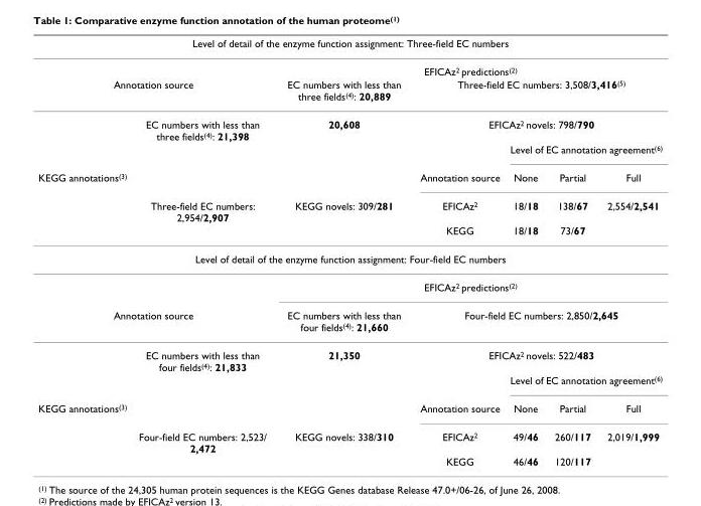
<table><thead><tr><td colspan="7">Level of detail of the enzyme function assignment: Three-field EC numbers</td></tr></thead><tbody><tr><td></td><td></td><td colspan="5">EFICAz<sup>2</sup> predictions<sup>(2)</sup></td></tr><tr><td colspan="2">Annotation source</td><td>EC numbers with less than three fields<sup>(4)</sup>: 20,889</td><td colspan="4">Three-field EC numbers: 3,508/3,416<sup>(5)</sup></td></tr><tr><td></td><td>EC numbers with less than three fields<sup>(4)</sup>: 21,398</td><td>20,608</td><td colspan="4">EFICAz<sup>2</sup> novels: 798/790</td></tr><tr><td></td><td></td><td></td><td></td><td colspan="3">Level of EC annotation agreement<sup>(6)</sup></td></tr><tr><td rowspan="3">KEGG annotations<sup>(3)</sup></td><td></td><td></td><td>Annotation source</td><td>None</td><td>Partial</td><td>Full</td></tr><tr><td>Three-field EC numbers: 2,954/2,907</td><td>KEGG novels: 309/281</td><td>EFICAz<sup>2</sup></td><td>18/18</td><td>138/67</td><td>2,554/2,541</td></tr><tr><td></td><td></td><td>KEGG</td><td>18/18</td><td>73/67</td><td></td></tr><tr><td colspan="7">Level of detail of the enzyme function assignment: Four-field EC numbers</td></tr><tr><td></td><td></td><td colspan="5">EFICAz<sup>2</sup> predictions<sup>(2)</sup></td></tr><tr><td colspan="2">Annotation source</td><td>EC numbers with less than four fields<sup>(4)</sup>: 21,660</td><td colspan="4">Four-field EC numbers: 2,850/2,645</td></tr><tr><td></td><td>EC numbers with less than four fields<sup>(4)</sup>: 21,833</td><td>21,350</td><td colspan="4">EFICAz<sup>2</sup> novels: 522/483</td></tr><tr><td></td><td></td><td></td><td></td><td colspan="3">Level of EC annotation agreement<sup>(6)</sup></td></tr><tr><td rowspan="3">KEGG annotations<sup>(3)</sup></td><td></td><td></td><td>Annotation source</td><td>None</td><td>Partial</td><td>Full</td></tr><tr><td>Four-field EC numbers: 2,523/ 2,472</td><td>KEGG novels: 338/310</td><td>EFICAz<sup>2</sup></td><td>49/46</td><td>260/117</td><td>2,019/1,999</td></tr><tr><td></td><td></td><td>KEGG</td><td>46/46</td><td>120/117</td><td></td></tr></tbody></table>